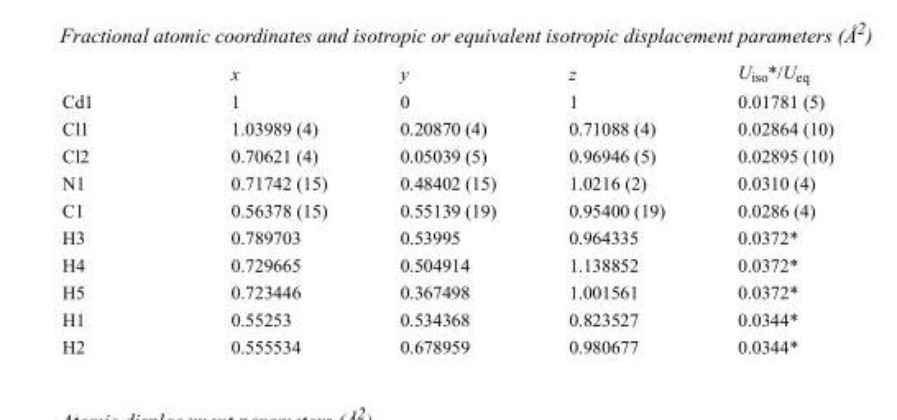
<table><thead><tr><td></td><td>x</td><td>y</td><td>z</td><td>U<sub>iso</sub>*/U<sub>eq</sub></td></tr></thead><tbody><tr><td>Cd1</td><td>1</td><td>0</td><td>1</td><td>0.01781 (5)</td></tr><tr><td>Cl1</td><td>1.03989 (4)</td><td>0.20870 (4)</td><td>0.71088 (4)</td><td>0.02864 (10)</td></tr><tr><td>Cl2</td><td>0.70621 (4)</td><td>0.05039 (5)</td><td>0.96946 (5)</td><td>0.02895 (10)</td></tr><tr><td>N1</td><td>0.71742 (15)</td><td>0.48402 (15)</td><td>1.0216 (2)</td><td>0.0310 (4)</td></tr><tr><td>C1</td><td>0.56378 (15)</td><td>0.55139 (19)</td><td>0.95400 (19)</td><td>0.0286 (4)</td></tr><tr><td>H3</td><td>0.789703</td><td>0.53995</td><td>0.964335</td><td>0.0372*</td></tr><tr><td>H4</td><td>0.729665</td><td>0.504914</td><td>1.138852</td><td>0.0372*</td></tr><tr><td>H5</td><td>0.723446</td><td>0.367498</td><td>1.001561</td><td>0.0372*</td></tr><tr><td>H1</td><td>0.55253</td><td>0.534368</td><td>0.823527</td><td>0.0344*</td></tr><tr><td>H2</td><td>0.555534</td><td>0.678959</td><td>0.980677</td><td>0.0344*</td></tr></tbody></table>